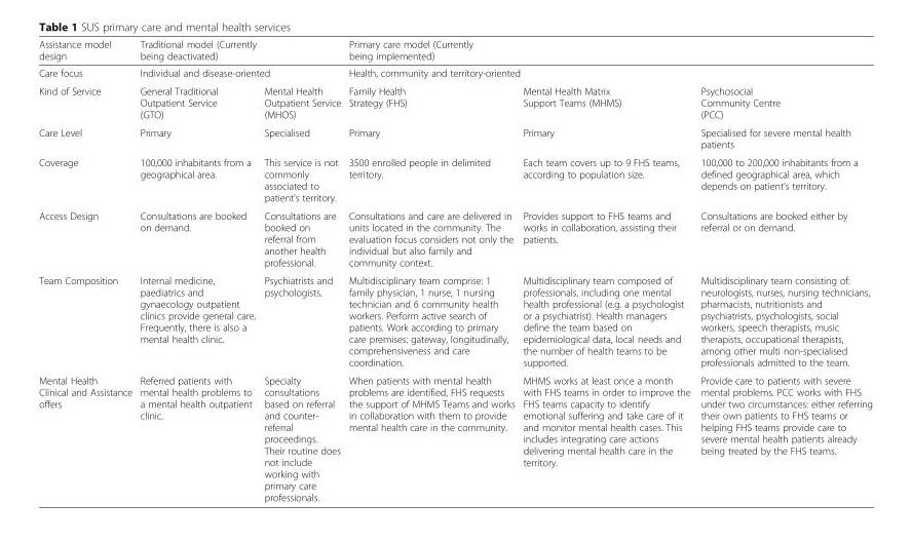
<table><thead><tr><td rowspan="3">Assistance model design Care focus Kind of Service</td><td rowspan="2" colspan="2">Traditional model (Currently being deactivated) Individual and disease-oriented</td><td rowspan="2" colspan="3">Primary care model (Currently being implemented) Health, community and territory-oriented</td></tr><tr></tr><tr><td>General Traditional Outpatient Service (GTO)</td><td>Mental Health Outpatient Service (MHOS)</td><td>Family Health Strategy (FHS)</td><td>Mental Health Matrix Support Teams (MHMS)</td><td>Psychosocial Community Centre (PCC)</td></tr></thead><tbody><tr><td>Care Level</td><td>Primary</td><td>Specialised</td><td>Primary</td><td>Primary</td><td>Specialised for severe mental health patients</td></tr><tr><td>Coverage</td><td>100,000 inhabitants from a geographical area.</td><td>This service is not commonly associated to patient’s territory.</td><td>3500 enrolled people in delimited territory.</td><td>Each team covers up to 9 FHS teams, according to population size.</td><td>100,000 to 200,000 inhabitants from a defined geographical area, which depends on patient’s territory.</td></tr><tr><td>Access Design</td><td>Consultations are booked on demand.</td><td>Consultations are booked on referral from another health professional.</td><td>Consultations and care are delivered in units located in the community. The evaluation focus considers not only the individual but also family and community context.</td><td>Provides support to FHS teams and works in collaboration, assisting their patients.</td><td>Consultations are booked either by referral or on demand.</td></tr><tr><td>Team Composition</td><td>Internal medicine, paediatrics and gynaecology outpatient clinics provide general care. Frequently, there is also a mental health clinic.</td><td>Psychiatrists and psychologists.</td><td>Multidisciplinary team comprise: 1 family physician, 1 nurse, 1 nursing technician and 6 community health workers. Perform active search of patients. Work according to primary care premises: gateway, longitudinally, comprehensiveness and care coordination.</td><td>Multidisciplinary team composed of professionals, including one mental health professional (e.g. a psychologist or a psychiatrist). Health managers define the team based on epidemiological data, local needs and the number of health teams to be supported.</td><td>Multidisciplinary team consisting of: neurologists, nurses, nursing technicians, pharmacists, nutritionists and psychiatrists, psychologists, social workers, speech therapists, music therapists, occupational therapists, among other multi non-specialised professionals admitted to the team.</td></tr><tr><td>Mental Health Clinical and Assistance offers</td><td>Referred patients with mental health problems to a mental health outpatient clinic.</td><td>Specialty consultations based on referral and counter- referral proceedings. Their routine does not include working with primary care professionals.</td><td>When patients with mental health problems are identified, FHS requests the support of MHMS Teams and works in collaboration with them to provide mental health care in the community.</td><td>MHMS works at least once a month with FHS teams in order to improve the FHS teams capacity to identify emotional suffering and take care of it and monitor mental health cases. This includes integrating care actions delivering mental health care in the territory.</td><td>Provide care to patients with severe mental problems. PCC works with FHS under two circumstances: either referring their own patients to FHS teams or helping FHS teams provide care to severe mental health patients already being treated by the FHS teams.</td></tr></tbody></table>